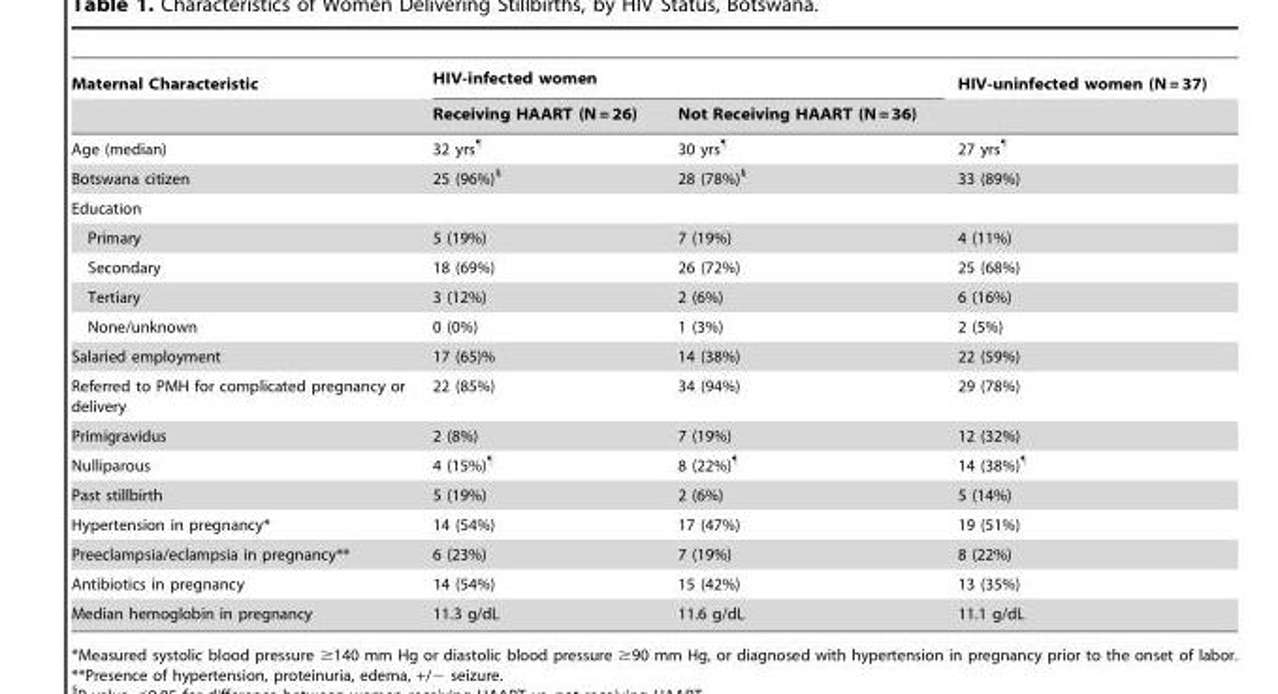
<table><thead><tr><td rowspan="2">Maternal Characteristic</td><td colspan="2">HIV-infected women</td><td rowspan="2">HIV-uninfected women (N = 37)</td></tr><tr><td>Receiving HAART (N = 26)</td><td>Not Receiving HAART (N = 36)</td></tr></thead><tbody><tr><td>Age (median)</td><td>32 yrs¶</td><td>30 yrs¶</td><td>27 yrs¶</td></tr><tr><td>Botswana citizen</td><td>25 (96%)§</td><td>28 (78%)§</td><td>33 (89%)</td></tr><tr><td colspan="4">Education</td></tr><tr><td>Primary</td><td>5 (19%)</td><td>7 (19%)</td><td>4 (11%)</td></tr><tr><td>Secondary</td><td>18 (69%)</td><td>26 (72%)</td><td>25 (68%)</td></tr><tr><td>Tertiary</td><td>3 (12%)</td><td>2 (6%)</td><td>6 (16%)</td></tr><tr><td>None/unknown</td><td>0 (0%)</td><td>1 (3%)</td><td>2 (5%)</td></tr><tr><td>Salaried employment</td><td>17 (65)%</td><td>14 (38%)</td><td>22 (59%)</td></tr><tr><td>Referred to PMH for complicated pregnancy or delivery</td><td>22 (85%)</td><td>34 (94%)</td><td>29 (78%)</td></tr><tr><td>Primigravidus</td><td>2 (8%)</td><td>7 (19%)</td><td>12 (32%)</td></tr><tr><td>Nulliparous</td><td>4 (15%)¶</td><td>8 (22%)¶</td><td>14 (38%)¶</td></tr><tr><td>Past stillbirth</td><td>5 (19%)</td><td>2 (6%)</td><td>5 (14%)</td></tr><tr><td>Hypertension in pregnancy*</td><td>14 (54%)</td><td>17 (47%)</td><td>19 (51%)</td></tr><tr><td>Preeclampsia/eclampsia in pregnancy**</td><td>6 (23%)</td><td>7 (19%)</td><td>8 (22%)</td></tr><tr><td>Antibiotics in pregnancy</td><td>14 (54%)</td><td>15 (42%)</td><td>13 (35%)</td></tr><tr><td>Median hemoglobin in pregnancy</td><td>11.3 g/dL</td><td>11.6 g/dL</td><td>11.1 g/dL</td></tr></tbody></table>